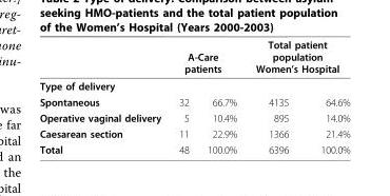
<table><thead><tr><td rowspan="2">Type of delivery</td><td colspan="2">A-Care patients</td><td colspan="2">Total patient population Women’s Hospital</td></tr><tr><td></td><td></td><td></td><td></td></tr></thead><tbody><tr><td>Spontaneous</td><td>32</td><td>66.7%</td><td>4135</td><td>64.6%</td></tr><tr><td>Operative vaginal delivery</td><td>5</td><td>10.4%</td><td>895</td><td>14.0%</td></tr><tr><td>Caesarean section</td><td>11</td><td>22.9%</td><td>1366</td><td>21.4%</td></tr><tr><td>Total</td><td>48</td><td>100.0%</td><td>6396</td><td>100.0%</td></tr></tbody></table>